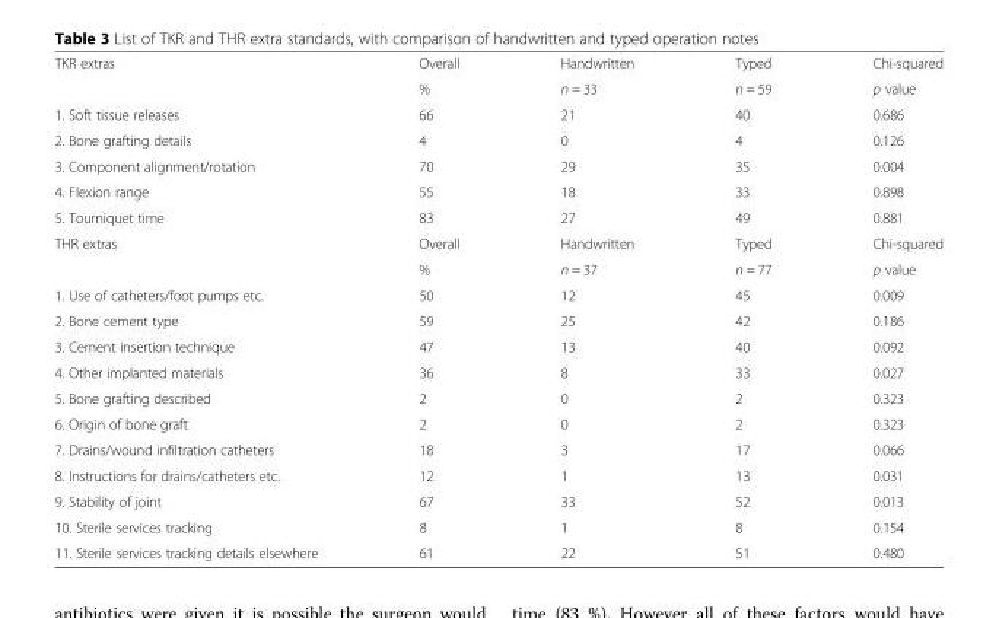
<table><tbody><tr><td rowspan="2">TKR extras</td><td>Overall</td><td>Handwritten</td><td>Typed</td><td>Chi-squared</td></tr><tr><td>%</td><td>n = 33</td><td>n = 59</td><td>p value</td></tr><tr><td>1. Soft tissue releases</td><td>66</td><td>21</td><td>40</td><td>0.686</td></tr><tr><td>2. Bone grafting details</td><td>4</td><td>0</td><td>4</td><td>0.126</td></tr><tr><td>3. Component alignment/rotation</td><td>70</td><td>29</td><td>35</td><td>0.004</td></tr><tr><td>4. Flexion range</td><td>55</td><td>18</td><td>33</td><td>0.898</td></tr><tr><td>5. Tourniquet time</td><td>83</td><td>27</td><td>49</td><td>0.881</td></tr><tr><td rowspan="2">THR extras</td><td>Overall</td><td>Handwritten</td><td>Typed</td><td>Chi-squared</td></tr><tr><td>%</td><td>n = 37</td><td>n = 77</td><td>p value</td></tr><tr><td>1. Use of catheters/foot pumps etc.</td><td>50</td><td>12</td><td>45</td><td>0.009</td></tr><tr><td>2. Bone cement type</td><td>59</td><td>25</td><td>42</td><td>0.186</td></tr><tr><td>3. Cement insertion technique</td><td>47</td><td>13</td><td>40</td><td>0.092</td></tr><tr><td>4. Other implanted materials</td><td>36</td><td>8</td><td>33</td><td>0.027</td></tr><tr><td>5. Bone grafting described</td><td>2</td><td>0</td><td>2</td><td>0.323</td></tr><tr><td>6. Origin of bone graft</td><td>2</td><td>0</td><td>2</td><td>0.323</td></tr><tr><td>7. Drains/wound infiltration catheters</td><td>18</td><td>3</td><td>17</td><td>0.066</td></tr><tr><td>8. Instructions for drains/catheters etc.</td><td>12</td><td>1</td><td>13</td><td>0.031</td></tr><tr><td>9. Stability of joint</td><td>67</td><td>33</td><td>52</td><td>0.013</td></tr><tr><td>10. Sterile services tracking</td><td>8</td><td>1</td><td>8</td><td>0.154</td></tr><tr><td>11. Sterile services tracking details elsewhere</td><td>61</td><td>22</td><td>51</td><td>0.480</td></tr></tbody></table>